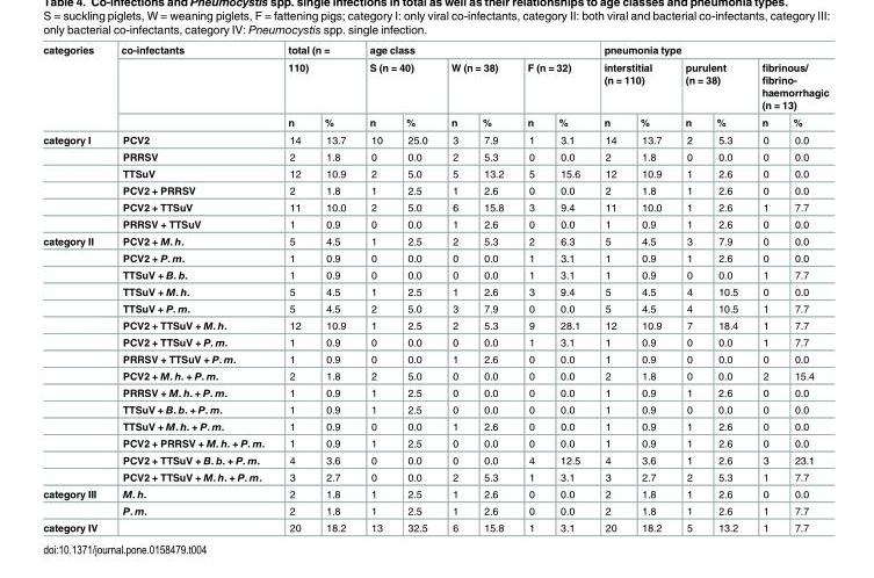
<table><thead><tr><td rowspan="3">categories</td><td rowspan="3">co-infectants</td><td rowspan="2" colspan="2">total (n = 110)</td><td colspan="6">age class</td><td colspan="6">pneumonia type</td></tr><tr><td colspan="2">S (n = 40)</td><td colspan="2">W (n = 38)</td><td colspan="2">F (n = 32)</td><td colspan="2">interstitial (n = 110)</td><td colspan="2">purulent (n = 38)</td><td colspan="2">fibrinous/ fibrino- haemorrhagic (n = 13)</td></tr><tr><td>n</td><td>%</td><td>n</td><td>%</td><td>n</td><td>%</td><td>n</td><td>%</td><td>n</td><td>%</td><td>n</td><td>%</td><td>n</td><td>%</td></tr></thead><tbody><tr><td rowspan="6">category I</td><td>PCV2</td><td>14</td><td>13.7</td><td>10</td><td>25.0</td><td>3</td><td>7.9</td><td>1</td><td>3.1</td><td>14</td><td>13.7</td><td>2</td><td>5.3</td><td>0</td><td>0.0</td></tr><tr><td>PRRSV</td><td>2</td><td>1.8</td><td>0</td><td>0.0</td><td>2</td><td>5.3</td><td>0</td><td>0.0</td><td>2</td><td>1.8</td><td>0</td><td>0.0</td><td>0</td><td>0.0</td></tr><tr><td>TTSuV</td><td>12</td><td>10.9</td><td>2</td><td>5.0</td><td>5</td><td>13.2</td><td>5</td><td>15.6</td><td>12</td><td>10.9</td><td>1</td><td>2.6</td><td>0</td><td>0.0</td></tr><tr><td>PCV2 + PRRSV</td><td>2</td><td>1.8</td><td>1</td><td>2.5</td><td>1</td><td>2.6</td><td>0</td><td>0.0</td><td>2</td><td>1.8</td><td>1</td><td>2.6</td><td>0</td><td>0.0</td></tr><tr><td>PCV2 + TTSuV</td><td>11</td><td>10.0</td><td>2</td><td>5.0</td><td>6</td><td>15.8</td><td>3</td><td>9.4</td><td>11</td><td>10.0</td><td>1</td><td>2.6</td><td>1</td><td>7.7</td></tr><tr><td>PRRSV + TTSuV</td><td>1</td><td>0.9</td><td>0</td><td>0.0</td><td>1</td><td>2.6</td><td>0</td><td>0.0</td><td>1</td><td>0.9</td><td>1</td><td>2.6</td><td>0</td><td>0.0</td></tr><tr><td rowspan="15">category II</td><td>PCV2 + M. h.</td><td>5</td><td>4.5</td><td>1</td><td>2.5</td><td>2</td><td>5.3</td><td>2</td><td>6.3</td><td>5</td><td>4.5</td><td>3</td><td>7.9</td><td>0</td><td>0.0</td></tr><tr><td>PCV2 + P. m.</td><td>1</td><td>0.9</td><td>0</td><td>0.0</td><td>0</td><td>0.0</td><td>1</td><td>3.1</td><td>1</td><td>0.9</td><td>1</td><td>2.6</td><td>0</td><td>0.0</td></tr><tr><td>TTSuV + B. b.</td><td>1</td><td>0.9</td><td>0</td><td>0.0</td><td>0</td><td>0.0</td><td>1</td><td>3.1</td><td>1</td><td>0.9</td><td>0</td><td>0.0</td><td>1</td><td>7.7</td></tr><tr><td>TTSuV + M. h.</td><td>5</td><td>4.5</td><td>1</td><td>2.5</td><td>1</td><td>2.6</td><td>3</td><td>9.4</td><td>5</td><td>4.5</td><td>4</td><td>10.5</td><td>0</td><td>0.0</td></tr><tr><td>TTSuV + P. m.</td><td>5</td><td>4.5</td><td>2</td><td>5.0</td><td>3</td><td>7.9</td><td>0</td><td>0.0</td><td>5</td><td>4.5</td><td>4</td><td>10.5</td><td>1</td><td>7.7</td></tr><tr><td>PCV2 + TTSuV + M. h.</td><td>12</td><td>10.9</td><td>1</td><td>2.5</td><td>2</td><td>5.3</td><td>9</td><td>28.1</td><td>12</td><td>10.9</td><td>7</td><td>18.4</td><td>1</td><td>7.7</td></tr><tr><td>PCV2 + TTSuV + P. m.</td><td>1</td><td>0.9</td><td>0</td><td>0.0</td><td>0</td><td>0.0</td><td>1</td><td>3.1</td><td>1</td><td>0.9</td><td>0</td><td>0.0</td><td>1</td><td>7.7</td></tr><tr><td>PRRSV + TTSuV + P. m.</td><td>1</td><td>0.9</td><td>0</td><td>0.0</td><td>1</td><td>2.6</td><td>0</td><td>0.0</td><td>1</td><td>0.9</td><td>0</td><td>0.0</td><td>0</td><td>0.0</td></tr><tr><td>PCV2 + M. h. + P. m.</td><td>2</td><td>1.8</td><td>2</td><td>5.0</td><td>0</td><td>0.0</td><td>0</td><td>0.0</td><td>2</td><td>1.8</td><td>0</td><td>0.0</td><td>2</td><td>15.4</td></tr><tr><td>PRRSV + M. h. + P. m.</td><td>1</td><td>0.9</td><td>1</td><td>2.5</td><td>0</td><td>0.0</td><td>0</td><td>0.0</td><td>1</td><td>0.9</td><td>1</td><td>2.6</td><td>0</td><td>0.0</td></tr><tr><td>TTSuV + B. b. + P. m.</td><td>1</td><td>0.9</td><td>1</td><td>2.5</td><td>0</td><td>0.0</td><td>0</td><td>0.0</td><td>1</td><td>0.9</td><td>0</td><td>0.0</td><td>0</td><td>0.0</td></tr><tr><td>TTSuV + M. h. + P. m.</td><td>1</td><td>0.9</td><td>0</td><td>0.0</td><td>1</td><td>2.6</td><td>0</td><td>0.0</td><td>1</td><td>0.9</td><td>1</td><td>2.6</td><td>0</td><td>0.0</td></tr><tr><td>PCV2 + PRRSV + M. h. + P. m.</td><td>1</td><td>0.9</td><td>1</td><td>2.5</td><td>0</td><td>0.0</td><td>0</td><td>0.0</td><td>1</td><td>0.9</td><td>1</td><td>2.6</td><td>0</td><td>0.0</td></tr><tr><td>PCV2 + TTSuV + B. b. + P. m.</td><td>4</td><td>3.6</td><td>0</td><td>0.0</td><td>0</td><td>0.0</td><td>4</td><td>12.5</td><td>4</td><td>3.6</td><td>1</td><td>2.6</td><td>3</td><td>23.1</td></tr><tr><td>PCV2 + TTSuV + M. h. + P. m.</td><td>3</td><td>2.7</td><td>0</td><td>0.0</td><td>2</td><td>5.3</td><td>1</td><td>3.1</td><td>3</td><td>2.7</td><td>2</td><td>5.3</td><td>1</td><td>7.7</td></tr><tr><td rowspan="2">category III</td><td>M. h.</td><td>2</td><td>1.8</td><td>1</td><td>2.5</td><td>1</td><td>2.6</td><td>0</td><td>0.0</td><td>2</td><td>1.8</td><td>1</td><td>2.6</td><td>0</td><td>0.0</td></tr><tr><td>P. m.</td><td>2</td><td>1.8</td><td>1</td><td>2.5</td><td>1</td><td>2.6</td><td>0</td><td>0.0</td><td>2</td><td>1.8</td><td>1</td><td>2.6</td><td>1</td><td>7.7</td></tr><tr><td>category IV</td><td></td><td>20</td><td>18.2</td><td>13</td><td>32.5</td><td>6</td><td>15.8</td><td>1</td><td>3.1</td><td>20</td><td>18.2</td><td>5</td><td>13.2</td><td>1</td><td>7.7</td></tr></tbody></table>